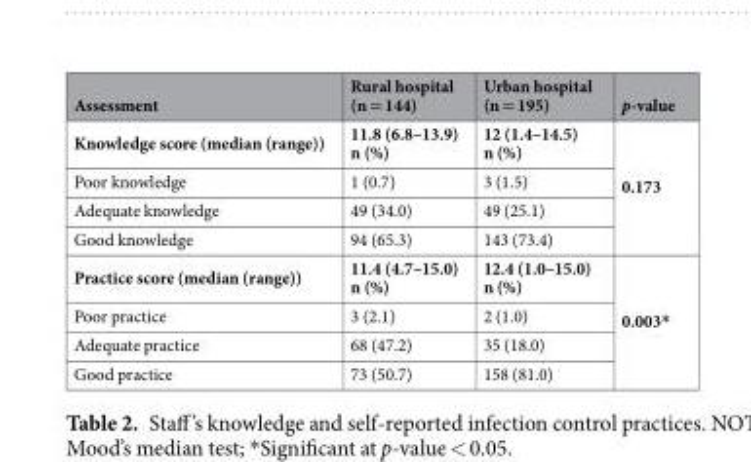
<table><thead><tr><td>Assessment</td><td>Rural hospital (n = 144)</td><td>Urban hospital (n = 195)</td><td>p-value</td></tr></thead><tbody><tr><td>Knowledge score (median (range))</td><td>11.8 (6.8–13.9) n (%)</td><td>12 (1.4–14.5) n (%)</td><td rowspan="4">0.173</td></tr><tr><td>Poor knowledge</td><td>1 (0.7)</td><td>3 (1.5)</td></tr><tr><td>Adequate knowledge</td><td>49 (34.0)</td><td>49 (25.1)</td></tr><tr><td>Good knowledge</td><td>94 (65.3)</td><td>143 (73.4)</td></tr><tr><td>Practice score (median (range))</td><td>11.4 (4.7–15.0) n (%)</td><td>12.4 (1.0–15.0) n (%)</td><td rowspan="4">0.003*</td></tr><tr><td>Poor practice</td><td>3 (2.1)</td><td>2 (1.0)</td></tr><tr><td>Adequate practice</td><td>68 (47.2)</td><td>35 (18.0)</td></tr><tr><td>Good practice</td><td>73 (50.7)</td><td>158 (81.0)</td></tr></tbody></table>